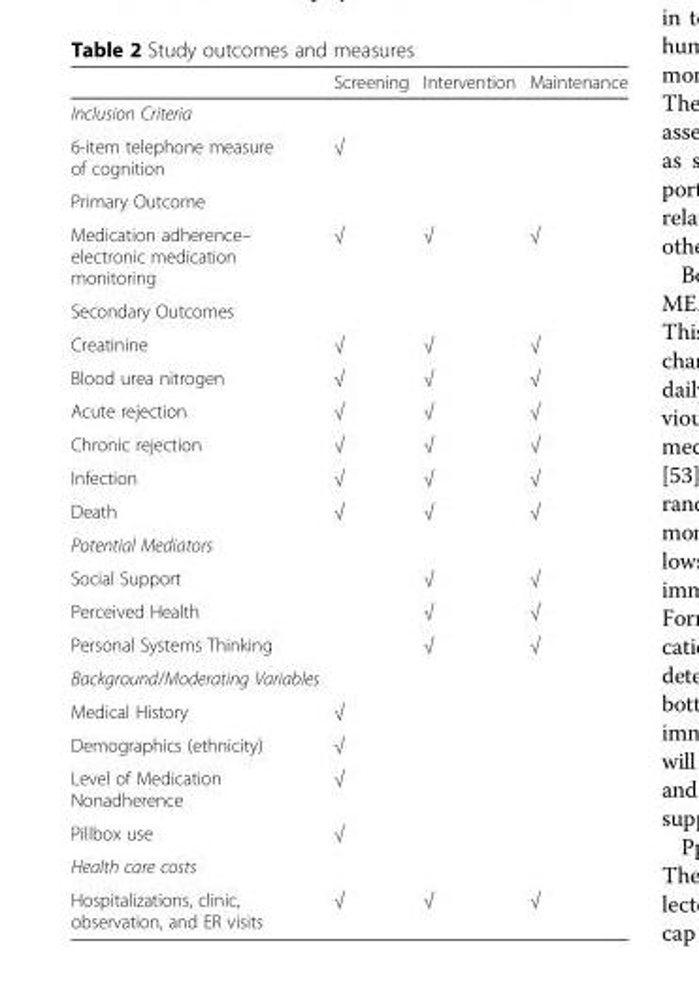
<table><thead><tr><td></td><td>Screening</td><td>Intervention</td><td>Maintenance</td></tr></thead><tbody><tr><td colspan="4">Inclusion Criteria</td></tr><tr><td>6-item telephone measure of cognition</td><td>√</td><td></td><td></td></tr><tr><td colspan="4">Primary Outcome</td></tr><tr><td>Medication adherence– electronic medication monitoring</td><td>√</td><td>√</td><td>√</td></tr><tr><td colspan="4">Secondary Outcomes</td></tr><tr><td>Creatinine</td><td>√</td><td>√</td><td>√</td></tr><tr><td>Blood urea nitrogen</td><td>√</td><td>√</td><td>√</td></tr><tr><td>Acute rejection</td><td>√</td><td>√</td><td>√</td></tr><tr><td>Chronic rejection</td><td>√</td><td>√</td><td>√</td></tr><tr><td>Infection</td><td>√</td><td>√</td><td>√</td></tr><tr><td>Death</td><td>√</td><td>√</td><td>√</td></tr><tr><td colspan="4">Potential Mediators</td></tr><tr><td>Social Support</td><td></td><td>√</td><td>√</td></tr><tr><td>Perceived Health</td><td></td><td>√</td><td>√</td></tr><tr><td>Personal Systems Thinking</td><td></td><td>√</td><td>√</td></tr><tr><td colspan="4">Background/Moderating Variables</td></tr><tr><td>Medical History</td><td>√</td><td></td><td></td></tr><tr><td>Demographics (ethnicity)</td><td>√</td><td></td><td></td></tr><tr><td>Level of Medication Nonadherence</td><td>√</td><td></td><td></td></tr><tr><td>Pillbox use</td><td>√</td><td></td><td></td></tr><tr><td colspan="4">Health care costs</td></tr><tr><td>Hospitalizations, clinic, observation, and ER visits</td><td>√</td><td>√</td><td>√</td></tr></tbody></table>